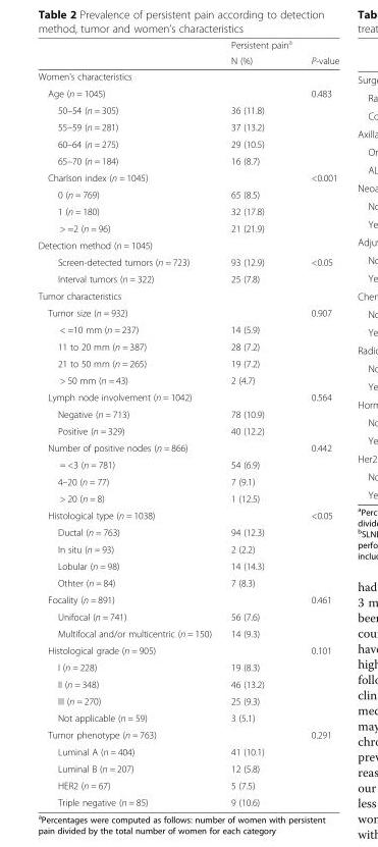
<table><thead><tr><td rowspan="2"></td><td rowspan="2">Persistent pain<sup>a</sup> N (%)</td><td rowspan="2">P-value</td></tr><tr></tr></thead><tbody><tr><td colspan="3">Women’s characteristics</td></tr><tr><td>Age (n = 1045)</td><td></td><td>0.483</td></tr><tr><td>50–54 (n = 305)</td><td>36 (11.8)</td><td></td></tr><tr><td>55–59 (n = 281)</td><td>37 (13.2)</td><td></td></tr><tr><td>60–64 (n = 275)</td><td>29 (10.5)</td><td></td></tr><tr><td>65–70 (n = 184)</td><td>16 (8.7)</td><td></td></tr><tr><td>Charlson index (n = 1045)</td><td></td><td>&lt;0.001</td></tr><tr><td>0 (n = 769)</td><td>65 (8.5)</td><td></td></tr><tr><td>1 (n = 180)</td><td>32 (17.8)</td><td></td></tr><tr><td>&gt; =2 (n = 96)</td><td>21 (21.9)</td><td></td></tr><tr><td colspan="3">Detection method (n = 1045)</td></tr><tr><td>Screen-detected tumors (n = 723)</td><td>93 (12.9)</td><td>&lt;0.05</td></tr><tr><td>Interval tumors (n = 322)</td><td>25 (7.8)</td><td></td></tr><tr><td colspan="3">Tumor characteristics</td></tr><tr><td>Tumor size (n = 932)</td><td></td><td>0.907</td></tr><tr><td>&lt; =10 mm (n = 237)</td><td>14 (5.9)</td><td></td></tr><tr><td>11 to 20 mm (n = 387)</td><td>28 (7.2)</td><td></td></tr><tr><td>21 to 50 mm (n = 265)</td><td>19 (7.2)</td><td></td></tr><tr><td>&gt; 50 mm (n = 43)</td><td>2 (4.7)</td><td></td></tr><tr><td>Lymph node involvement (n = 1042)</td><td></td><td>0.564</td></tr><tr><td>Negative (n = 713)</td><td>78 (10.9)</td><td></td></tr><tr><td>Positive (n = 329)</td><td>40 (12.2)</td><td></td></tr><tr><td>Number of positive nodes (n = 866)</td><td></td><td>0.442</td></tr><tr><td>= &lt;3 (n = 781)</td><td>54 (6.9)</td><td></td></tr><tr><td>4–20 (n = 77)</td><td>7 (9.1)</td><td></td></tr><tr><td>&gt; 20 (n = 8)</td><td>1 (12.5)</td><td></td></tr><tr><td>Histological type (n = 1038)</td><td></td><td>&lt;0.05</td></tr><tr><td>Ductal (n = 763)</td><td>94 (12.3)</td><td></td></tr><tr><td>In situ (n = 93)</td><td>2 (2.2)</td><td></td></tr><tr><td>Lobular (n = 98)</td><td>14 (14.3)</td><td></td></tr><tr><td>Othter (n = 84)</td><td>7 (8.3)</td><td></td></tr><tr><td>Focality (n = 891)</td><td></td><td>0.461</td></tr><tr><td>Unifocal (n = 741)</td><td>56 (7.6)</td><td></td></tr><tr><td>Multifocal and/or multicentric (n = 150)</td><td>14 (9.3)</td><td></td></tr><tr><td>Histological grade (n = 905)</td><td></td><td>0.101</td></tr><tr><td>I (n = 228)</td><td>19 (8.3)</td><td></td></tr><tr><td>II (n = 348)</td><td>46 (13.2)</td><td></td></tr><tr><td>III (n = 270)</td><td>25 (9.3)</td><td></td></tr><tr><td>Not applicable (n = 59)</td><td>3 (5.1)</td><td></td></tr><tr><td>Tumor phenotype (n = 763)</td><td></td><td>0.291</td></tr><tr><td>Luminal A (n = 404)</td><td>41 (10.1)</td><td></td></tr><tr><td>Luminal B (n = 207)</td><td>12 (5.8)</td><td></td></tr><tr><td>HER2 (n = 67)</td><td>5 (7.5)</td><td></td></tr><tr><td>Triple negative (n = 85)</td><td>9 (10.6)</td><td></td></tr></tbody></table>